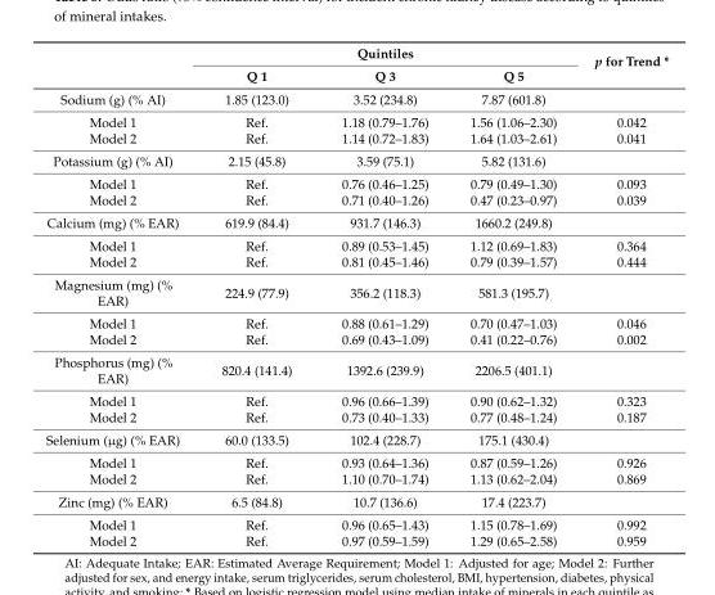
<table><thead><tr><td rowspan="2"></td><td colspan="3">Quintiles</td><td rowspan="2">p for Trend *</td></tr><tr><td>Q 1</td><td>Q 3</td><td>Q 5</td></tr></thead><tbody><tr><td>Sodium (g) (% AI)</td><td>1.85 (123.0)</td><td>3.52 (234.8)</td><td>7.87 (601.8)</td><td></td></tr><tr><td>Model 1</td><td>Ref.</td><td>1.18 (0.79–1.76)</td><td>1.56 (1.06–2.30)</td><td>0.042</td></tr><tr><td>Model 2</td><td>Ref.</td><td>1.14 (0.72–1.83)</td><td>1.64 (1.03–2.61)</td><td>0.041</td></tr><tr><td>Potassium (g) (% AI)</td><td>2.15 (45.8)</td><td>3.59 (75.1)</td><td>5.82 (131.6)</td><td></td></tr><tr><td>Model 1</td><td>Ref.</td><td>0.76 (0.46–1.25)</td><td>0.79 (0.49–1.30)</td><td>0.093</td></tr><tr><td>Model 2</td><td>Ref.</td><td>0.71 (0.40–1.26)</td><td>0.47 (0.23–0.97)</td><td>0.039</td></tr><tr><td>Calcium (mg) (% EAR)</td><td>619.9 (84.4)</td><td>931.7 (146.3)</td><td>1660.2 (249.8)</td><td></td></tr><tr><td>Model 1</td><td>Ref.</td><td>0.89 (0.53–1.45)</td><td>1.12 (0.69–1.83)</td><td>0.364</td></tr><tr><td>Model 2</td><td>Ref.</td><td>0.81 (0.45–1.46)</td><td>0.79 (0.39–1.57)</td><td>0.444</td></tr><tr><td>Magnesium (mg) (% EAR)</td><td>224.9 (77.9)</td><td>356.2 (118.3)</td><td>581.3 (195.7)</td><td></td></tr><tr><td>Model 1</td><td>Ref.</td><td>0.88 (0.61–1.29)</td><td>0.70 (0.47–1.03)</td><td>0.046</td></tr><tr><td>Model 2</td><td>Ref.</td><td>0.69 (0.43–1.09)</td><td>0.41 (0.22–0.76)</td><td>0.002</td></tr><tr><td>Phosphorus (mg) (% EAR)</td><td>820.4 (141.4)</td><td>1392.6 (239.9)</td><td>2206.5 (401.1)</td><td></td></tr><tr><td>Model 1</td><td>Ref.</td><td>0.96 (0.66–1.39)</td><td>0.90 (0.62–1.32)</td><td>0.323</td></tr><tr><td>Model 2</td><td>Ref.</td><td>0.73 (0.40–1.33)</td><td>0.77 (0.48–1.24)</td><td>0.187</td></tr><tr><td>Selenium (µg) (% EAR)</td><td>60.0 (133.5)</td><td>102.4 (228.7)</td><td>175.1 (430.4)</td><td></td></tr><tr><td>Model 1</td><td>Ref.</td><td>0.93 (0.64–1.36)</td><td>0.87 (0.59–1.26)</td><td>0.926</td></tr><tr><td>Model 2</td><td>Ref.</td><td>1.10 (0.70–1.74)</td><td>1.13 (0.62–2.04)</td><td>0.869</td></tr><tr><td>Zinc (mg) (% EAR)</td><td>6.5 (84.8)</td><td>10.7 (136.6)</td><td>17.4 (223.7)</td><td></td></tr><tr><td>Model 1</td><td>Ref.</td><td>0.96 (0.65–1.43)</td><td>1.15 (0.78–1.69)</td><td>0.992</td></tr><tr><td>Model 2</td><td>Ref.</td><td>0.97 (0.59–1.59)</td><td>1.29 (0.65–2.58)</td><td>0.959</td></tr></tbody></table>